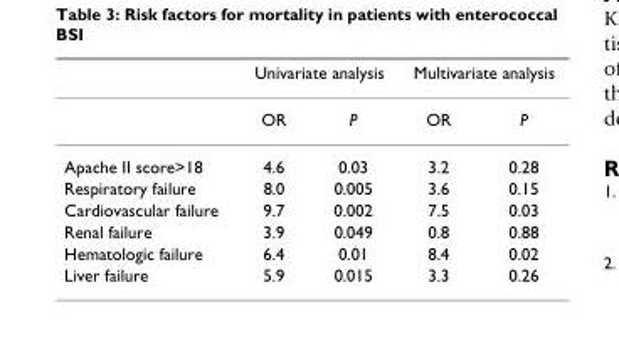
<table><thead><tr><td rowspan="2"></td><td colspan="2">Univariate analysis</td><td colspan="2">Multivariate analysis</td></tr><tr><td>OR</td><td>P</td><td>OR</td><td>P</td></tr></thead><tbody><tr><td>Apache II score&gt;18</td><td>4.6</td><td>0.03</td><td>3.2</td><td>0.28</td></tr><tr><td>Respiratory failure</td><td>8.0</td><td>0.005</td><td>3.6</td><td>0.15</td></tr><tr><td>Cardiovascular failure</td><td>9.7</td><td>0.002</td><td>7.5</td><td>0.03</td></tr><tr><td>Renal failure</td><td>3.9</td><td>0.049</td><td>0.8</td><td>0.88</td></tr><tr><td>Hematologic failure</td><td>6.4</td><td>0.01</td><td>8.4</td><td>0.02</td></tr><tr><td>Liver failure</td><td>5.9</td><td>0.015</td><td>3.3</td><td>0.26</td></tr></tbody></table>